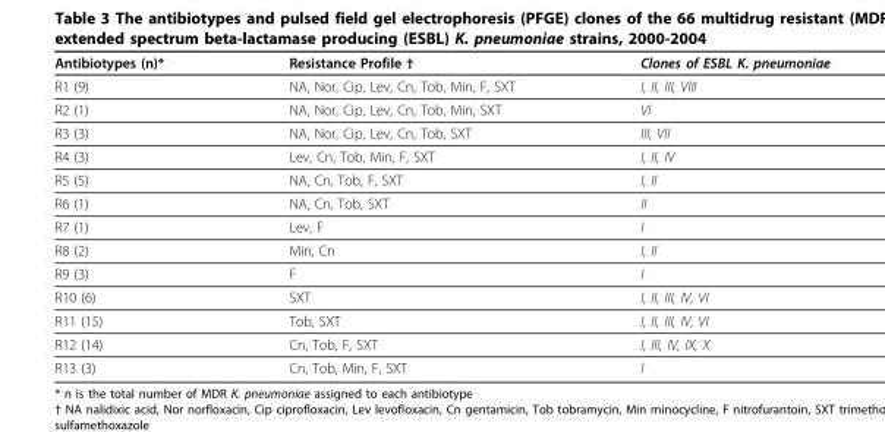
<table><thead><tr><td>Antibiotypes (n)*</td><td>Resistance Profile †</td><td>Clones of ESBL K. pneumoniae</td></tr></thead><tbody><tr><td>R1 (9)</td><td>NA, Nor, Cip, Lev, Cn, Tob, Min, F, SXT</td><td>I, II, III, VIII</td></tr><tr><td>R2 (1)</td><td>NA, Nor, Cip, Lev, Cn, Tob, Min, SXT</td><td>VI</td></tr><tr><td>R3 (3)</td><td>NA, Nor, Cip, Lev, Cn, Tob, SXT</td><td>III, VII</td></tr><tr><td>R4 (3)</td><td>Lev, Cn, Tob, Min, F, SXT</td><td>I, II, IV</td></tr><tr><td>R5 (5)</td><td>NA, Cn, Tob, F, SXT</td><td>I, II</td></tr><tr><td>R6 (1)</td><td>NA, Cn, Tob, SXT</td><td>II</td></tr><tr><td>R7 (1)</td><td>Lev, F</td><td>I</td></tr><tr><td>R8 (2)</td><td>Min, Cn</td><td>I, II</td></tr><tr><td>R9 (3)</td><td>F</td><td>I</td></tr><tr><td>R10 (6)</td><td>SXT</td><td>I, II, III, IV, VI</td></tr><tr><td>R11 (15)</td><td>Tob, SXT</td><td>I, II, III, IV, VI</td></tr><tr><td>R12 (14)</td><td>Cn, Tob, F, SXT</td><td>I, III, IV, IX, X</td></tr><tr><td>R13 (3)</td><td>Cn, Tob, Min, F, SXT</td><td>I</td></tr></tbody></table>